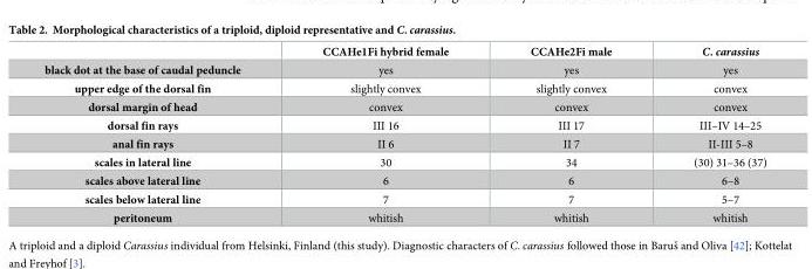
<table><thead><tr><td></td><td>CCAHe1Fi hybrid female</td><td>CCAHe2Fi male</td><td>C. carassius</td></tr></thead><tbody><tr><td>black dot at the base of caudal peduncle</td><td>yes</td><td>yes</td><td>yes</td></tr><tr><td>upper edge of the dorsal fin</td><td>slightly convex</td><td>slightly convex</td><td>convex</td></tr><tr><td>dorsal margin of head</td><td>convex</td><td>convex</td><td>convex</td></tr><tr><td>dorsal fin rays</td><td>III 16</td><td>III 17</td><td>III–IV 14–25</td></tr><tr><td>anal fin rays</td><td>II 6</td><td>II 7</td><td>II-III 5–8</td></tr><tr><td>scales in lateral line</td><td>30</td><td>34</td><td>(30) 31–36 (37)</td></tr><tr><td>scales above lateral line</td><td>6</td><td>6</td><td>6–8</td></tr><tr><td>scales below lateral line</td><td>7</td><td>7</td><td>5–7</td></tr><tr><td>peritoneum</td><td>whitish</td><td>whitish</td><td>whitish</td></tr></tbody></table>